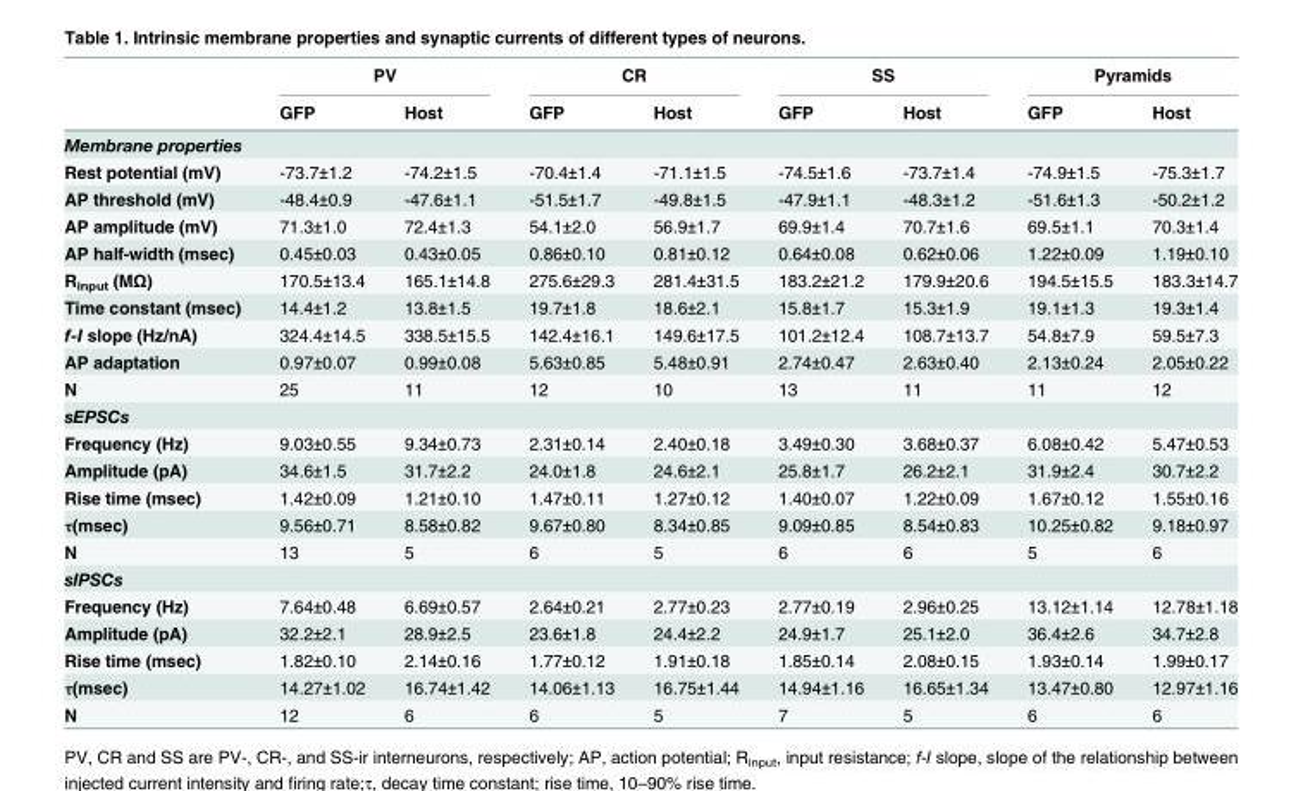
<table><thead><tr><td rowspan="2"></td><td colspan="2">PV</td><td colspan="2">CR</td><td colspan="2">SS</td><td colspan="2">Pyramids</td></tr><tr><td>GFP</td><td>Host</td><td>GFP</td><td>Host</td><td>GFP</td><td>Host</td><td>GFP</td><td>Host</td></tr></thead><tbody><tr><td colspan="9">Membrane properties</td></tr><tr><td>Rest potential (mV)</td><td>-73.7±1.2</td><td>-74.2±1.5</td><td>-70.4±1.4</td><td>-71.1±1.5</td><td>-74.5±1.6</td><td>-73.7±1.4</td><td>-74.9±1.5</td><td>-75.3±1.7</td></tr><tr><td>AP threshold (mV)</td><td>-48.4±0.9</td><td>-47.6±1.1</td><td>-51.5±1.7</td><td>-49.8±1.5</td><td>-47.9±1.1</td><td>-48.3±1.2</td><td>-51.6±1.3</td><td>-50.2±1.2</td></tr><tr><td>AP amplitude (mV)</td><td>71.3±1.0</td><td>72.4±1.3</td><td>54.1±2.0</td><td>56.9±1.7</td><td>69.9±1.4</td><td>70.7±1.6</td><td>69.5±1.1</td><td>70.3±1.4</td></tr><tr><td>AP half-width (msec)</td><td>0.45±0.03</td><td>0.43±0.05</td><td>0.86±0.10</td><td>0.81±0.12</td><td>0.64±0.08</td><td>0.62±0.06</td><td>1.22±0.09</td><td>1.19±0.10</td></tr><tr><td>R<sub>input</sub> (MΩ)</td><td>170.5±13.4</td><td>165.1±14.8</td><td>275.6±29.3</td><td>281.4±31.5</td><td>183.2±21.2</td><td>179.9±20.6</td><td>194.5±15.5</td><td>183.3±14.7</td></tr><tr><td>Time constant (msec)</td><td>14.4±1.2</td><td>13.8±1.5</td><td>19.7±1.8</td><td>18.6±2.1</td><td>15.8±1.7</td><td>15.3±1.9</td><td>19.1±1.3</td><td>19.3±1.4</td></tr><tr><td>f-I slope (Hz/nA)</td><td>324.4±14.5</td><td>338.5±15.5</td><td>142.4±16.1</td><td>149.6±17.5</td><td>101.2±12.4</td><td>108.7±13.7</td><td>54.8±7.9</td><td>59.5±7.3</td></tr><tr><td>AP adaptation</td><td>0.97±0.07</td><td>0.99±0.08</td><td>5.63±0.85</td><td>5.48±0.91</td><td>2.74±0.47</td><td>2.63±0.40</td><td>2.13±0.24</td><td>2.05±0.22</td></tr><tr><td>N</td><td>25</td><td>11</td><td>12</td><td>10</td><td>13</td><td>11</td><td>11</td><td>12</td></tr><tr><td colspan="9">sEPSCs</td></tr><tr><td>Frequency (Hz)</td><td>9.03±0.55</td><td>9.34±0.73</td><td>2.31±0.14</td><td>2.40±0.18</td><td>3.49±0.30</td><td>3.68±0.37</td><td>6.08±0.42</td><td>5.47±0.53</td></tr><tr><td>Amplitude (pA)</td><td>34.6±1.5</td><td>31.7±2.2</td><td>24.0±1.8</td><td>24.6±2.1</td><td>25.8±1.7</td><td>26.2±2.1</td><td>31.9±2.4</td><td>30.7±2.2</td></tr><tr><td>Rise time (msec)</td><td>1.42±0.09</td><td>1.21±0.10</td><td>1.47±0.11</td><td>1.27±0.12</td><td>1.40±0.07</td><td>1.22±0.09</td><td>1.67±0.12</td><td>1.55±0.16</td></tr><tr><td>τ(msec)</td><td>9.56±0.71</td><td>8.58±0.82</td><td>9.67±0.80</td><td>8.34±0.85</td><td>9.09±0.85</td><td>8.54±0.83</td><td>10.25±0.82</td><td>9.18±0.97</td></tr><tr><td>N</td><td>13</td><td>5</td><td>6</td><td>5</td><td>6</td><td>6</td><td>5</td><td>6</td></tr><tr><td colspan="9">sIPSCs</td></tr><tr><td>Frequency (Hz)</td><td>7.64±0.48</td><td>6.69±0.57</td><td>2.64±0.21</td><td>2.77±0.23</td><td>2.77±0.19</td><td>2.96±0.25</td><td>13.12±1.14</td><td>12.78±1.18</td></tr><tr><td>Amplitude (pA)</td><td>32.2±2.1</td><td>28.9±2.5</td><td>23.6±1.8</td><td>24.4±2.2</td><td>24.9±1.7</td><td>25.1±2.0</td><td>36.4±2.6</td><td>34.7±2.8</td></tr><tr><td>Rise time (msec)</td><td>1.82±0.10</td><td>2.14±0.16</td><td>1.77±0.12</td><td>1.91±0.18</td><td>1.85±0.14</td><td>2.08±0.15</td><td>1.93±0.14</td><td>1.99±0.17</td></tr><tr><td>τ(msec)</td><td>14.27±1.02</td><td>16.74±1.42</td><td>14.06±1.13</td><td>16.75±1.44</td><td>14.94±1.16</td><td>16.65±1.34</td><td>13.47±0.80</td><td>12.97±1.16</td></tr><tr><td>N</td><td>12</td><td>6</td><td>6</td><td>5</td><td>7</td><td>5</td><td>6</td><td>6</td></tr></tbody></table>